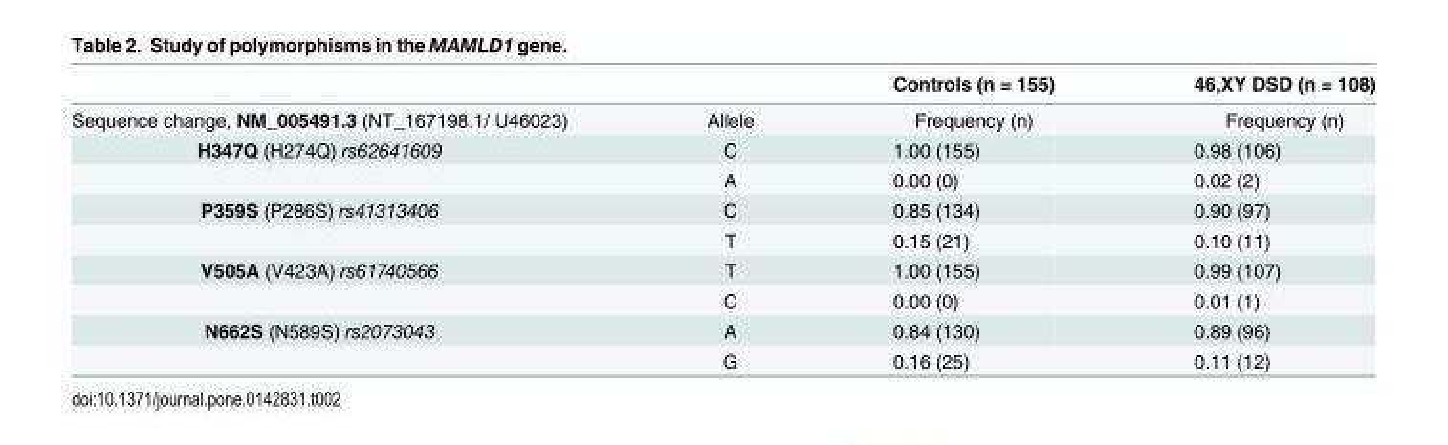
<table><thead><tr><td></td><td></td><td>Controls (n = 155)</td><td>46,XY DSD (n = 108)</td></tr></thead><tbody><tr><td>Sequence change, NM_005491.3 (NT_167198.1/ U46023)</td><td>Allele</td><td>Frequency (n)</td><td>Frequency (n)</td></tr><tr><td rowspan="2">H347Q (H274Q) rs62641609</td><td>C</td><td>1.00 (155)</td><td>0.98 (106)</td></tr><tr><td>A</td><td>0.00 (0)</td><td>0.02 (2)</td></tr><tr><td rowspan="2">P359S (P286S) rs41313406</td><td>C</td><td>0.85 (134)</td><td>0.90 (97)</td></tr><tr><td>T</td><td>0.15 (21)</td><td>0.10 (11)</td></tr><tr><td rowspan="2">V505A (V423A) rs61740566</td><td>T</td><td>1.00 (155)</td><td>0.99 (107)</td></tr><tr><td>C</td><td>0.00 (0)</td><td>0.01 (1)</td></tr><tr><td rowspan="2">N662S (N589S) rs2073043</td><td>A</td><td>0.84 (130)</td><td>0.89 (96)</td></tr><tr><td>G</td><td>0.16 (25)</td><td>0.11 (12)</td></tr></tbody></table>